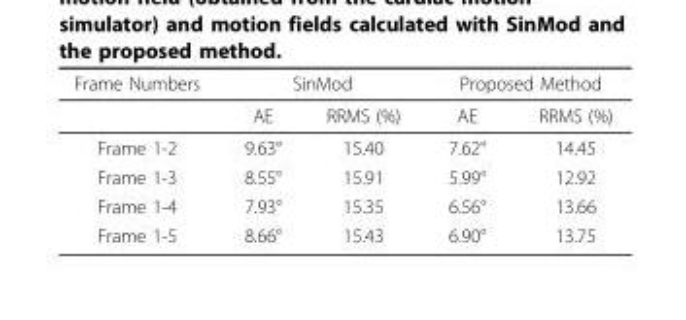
<table><thead><tr><td rowspan="2">Frame Numbers</td><td colspan="2">SinMod</td><td colspan="2">Proposed Method</td></tr><tr><td>AE</td><td>RRMS (%)</td><td>AE</td><td>RRMS (%)</td></tr></thead><tbody><tr><td>Frame 1-2</td><td>9.63°</td><td>15.40</td><td>7.62°</td><td>14.45</td></tr><tr><td>Frame 1-3</td><td>8.55°</td><td>15.91</td><td>5.99°</td><td>12.92</td></tr><tr><td>Frame 1-4</td><td>7.93°</td><td>15.35</td><td>6.56°</td><td>13.66</td></tr><tr><td>Frame 1-5</td><td>8.66°</td><td>15.43</td><td>6.90°</td><td>13.75</td></tr></tbody></table>